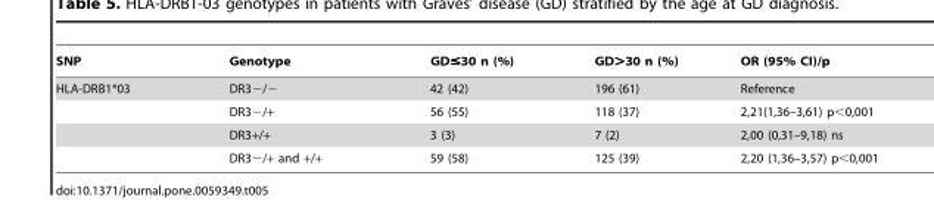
<table><thead><tr><td>SNP</td><td>Genotype</td><td>GD≤30 n (%)</td><td>GD&gt;30 n (%)</td><td>OR (95% CI)/p</td></tr></thead><tbody><tr><td rowspan="4">HLA-DRB1*03</td><td>DR3−/−</td><td>42 (42)</td><td>196 (61)</td><td>Reference</td></tr><tr><td>DR3−/+</td><td>56 (55)</td><td>118 (37)</td><td>2,21(1,36–3,61) p&lt;0,001</td></tr><tr><td>DR3+/+</td><td>3 (3)</td><td>7 (2)</td><td>2,00 (0,31–9,18) ns</td></tr><tr><td>DR3−/+ and +/+</td><td>59 (58)</td><td>125 (39)</td><td>2,20 (1,36–3,57) p&lt;0,001</td></tr></tbody></table>